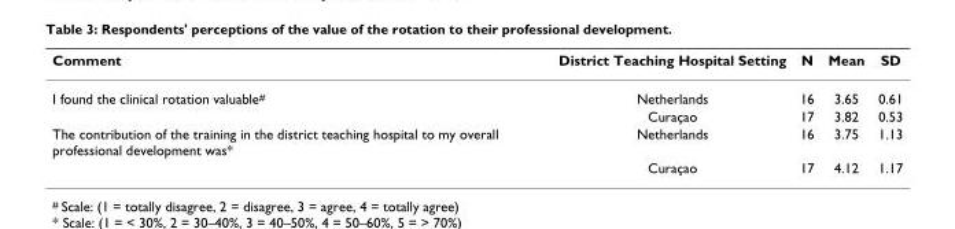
<table><thead><tr><td>Comment</td><td>District Teaching Hospital Setting</td><td>N</td><td>Mean</td><td>SD</td></tr></thead><tbody><tr><td rowspan="2">I found the clinical rotation valuable<sup>#</sup></td><td>Netherlands</td><td>16</td><td>3.65</td><td>0.61</td></tr><tr><td>Curaçao</td><td>17</td><td>3.82</td><td>0.53</td></tr><tr><td rowspan="2">The contribution of the training in the district teaching hospital to my overall professional development was*</td><td>Netherlands</td><td>16</td><td>3.75</td><td>1.13</td></tr><tr><td>Curaçao</td><td>17</td><td>4.12</td><td>1.17</td></tr></tbody></table>